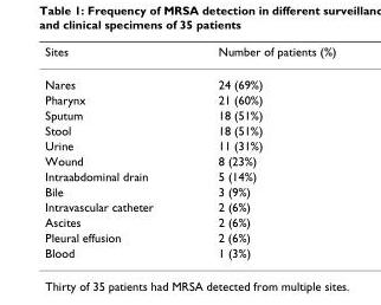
<table><thead><tr><td>Sites</td><td>Number of patients (%)</td></tr></thead><tbody><tr><td>Nares</td><td>24 (69%)</td></tr><tr><td>Pharynx</td><td>21 (60%)</td></tr><tr><td>Sputum</td><td>18 (51%)</td></tr><tr><td>Stool</td><td>18 (51%)</td></tr><tr><td>Urine</td><td>11 (31%)</td></tr><tr><td>Wound</td><td>8 (23%)</td></tr><tr><td>Intraabdominal drain</td><td>5 (14%)</td></tr><tr><td>Bile</td><td>3 (9%)</td></tr><tr><td>Intravascular catheter</td><td>2 (6%)</td></tr><tr><td>Ascites</td><td>2 (6%)</td></tr><tr><td>Pleural effusion</td><td>2 (6%)</td></tr><tr><td>Blood</td><td>1 (3%)</td></tr></tbody></table>